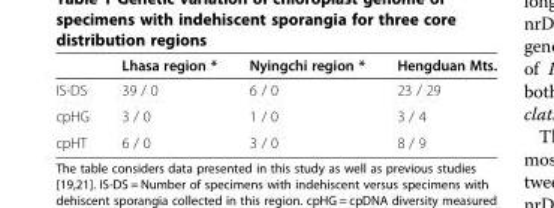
<table><thead><tr><td></td><td>Lhasa region *</td><td>Nyingchi region *</td><td>Hengduan Mts.</td></tr></thead><tbody><tr><td>IS-DS</td><td>39 / 0</td><td>6 / 0</td><td>23 / 29</td></tr><tr><td>cpHG</td><td>3 / 0</td><td>1 / 0</td><td>3 / 4</td></tr><tr><td>cpHT</td><td>6 / 0</td><td>3 / 0</td><td>8 / 9</td></tr></tbody></table>